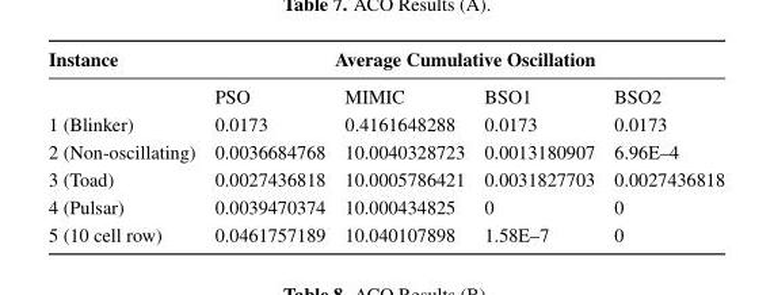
<table><thead><tr><td rowspan="2">Instance</td><td colspan="4">Average Cumulative Oscillation</td></tr><tr><td>PSO</td><td>MIMIC</td><td>BSO1</td><td>BSO2</td></tr></thead><tbody><tr><td>1 (Blinker)</td><td>0.0173</td><td>0.4161648288</td><td>0.0173</td><td>0.0173</td></tr><tr><td>2 (Non-oscillating)</td><td>0.0036684768</td><td>10.0040328723</td><td>0.0013180907</td><td>6.96E–4</td></tr><tr><td>3 (Toad)</td><td>0.0027436818</td><td>10.0005786421</td><td>0.0031827703</td><td>0.0027436818</td></tr><tr><td>4 (Pulsar)</td><td>0.0039470374</td><td>10.000434825</td><td>0</td><td>0</td></tr><tr><td>5 (10 cell row)</td><td>0.0461757189</td><td>10.040107898</td><td>1.58E–7</td><td>0</td></tr></tbody></table>